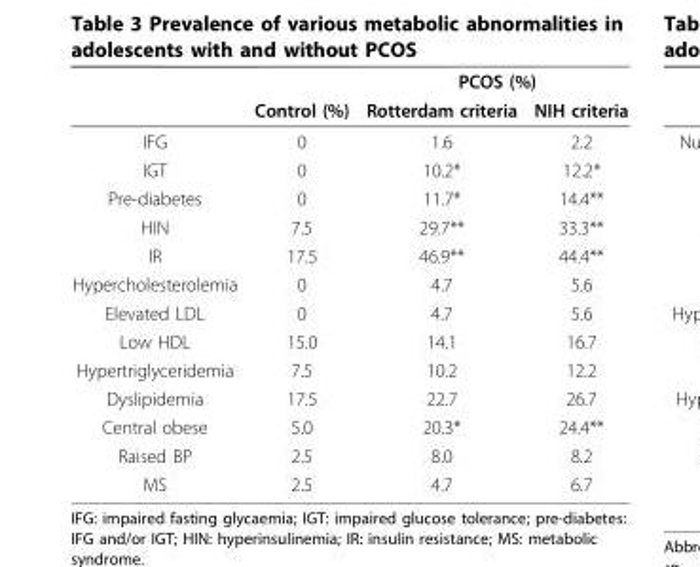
<table><thead><tr><td rowspan="2"></td><td rowspan="2">Control (%)</td><td colspan="2">PCOS (%)</td></tr><tr><td>Rotterdam criteria</td><td>NIH criteria</td></tr></thead><tbody><tr><td>IFG</td><td>0</td><td>1.6</td><td>2.2</td></tr><tr><td>IGT</td><td>0</td><td>10.2*</td><td>12.2*</td></tr><tr><td>Pre-diabetes</td><td>0</td><td>11.7*</td><td>14.4**</td></tr><tr><td>HIN</td><td>7.5</td><td>29.7**</td><td>33.3**</td></tr><tr><td>IR</td><td>17.5</td><td>46.9**</td><td>44.4**</td></tr><tr><td>Hypercholesterolemia</td><td>0</td><td>4.7</td><td>5.6</td></tr><tr><td>Elevated LDL</td><td>0</td><td>4.7</td><td>5.6</td></tr><tr><td>Low HDL</td><td>15.0</td><td>14.1</td><td>16.7</td></tr><tr><td>Hypertriglyceridemia</td><td>7.5</td><td>10.2</td><td>12.2</td></tr><tr><td>Dyslipidemia</td><td>17.5</td><td>22.7</td><td>26.7</td></tr><tr><td>Central obese</td><td>5.0</td><td>20.3*</td><td>24.4**</td></tr><tr><td>Raised BP</td><td>2.5</td><td>8.0</td><td>8.2</td></tr><tr><td>MS</td><td>2.5</td><td>4.7</td><td>6.7</td></tr></tbody></table>